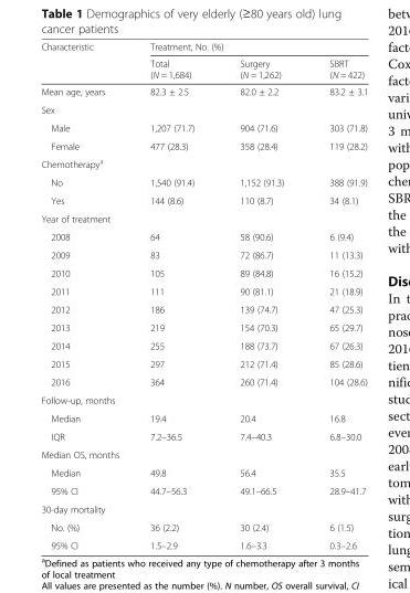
<table><thead><tr><td rowspan="2">Characteristic</td><td colspan="3">Treatment, No. (%)</td></tr><tr><td>Total (N = 1,684)</td><td>Surgery (N = 1,262)</td><td>SBRT (N = 422)</td></tr></thead><tbody><tr><td>Mean age, years</td><td>82.3 ± 2.5</td><td>82.0 ± 2.2</td><td>83.2 ± 3.1</td></tr><tr><td colspan="4">Sex</td></tr><tr><td>Male</td><td>1,207 (71.7)</td><td>904 (71.6)</td><td>303 (71.8)</td></tr><tr><td>Female</td><td>477 (28.3)</td><td>358 (28.4)</td><td>119 (28.2)</td></tr><tr><td colspan="4">Chemotherapy<sup>a</sup></td></tr><tr><td>No</td><td>1,540 (91.4)</td><td>1,152 (91.3)</td><td>388 (91.9)</td></tr><tr><td>Yes</td><td>144 (8.6)</td><td>110 (8.7)</td><td>34 (8.1)</td></tr><tr><td colspan="4">Year of treatment</td></tr><tr><td>2008</td><td>64</td><td>58 (90.6)</td><td>6 (9.4)</td></tr><tr><td>2009</td><td>83</td><td>72 (86.7)</td><td>11 (13.3)</td></tr><tr><td>2010</td><td>105</td><td>89 (84.8)</td><td>16 (15.2)</td></tr><tr><td>2011</td><td>111</td><td>90 (81.1)</td><td>21 (18.9)</td></tr><tr><td>2012</td><td>186</td><td>139 (74.7)</td><td>47 (25.3)</td></tr><tr><td>2013</td><td>219</td><td>154 (70.3)</td><td>65 (29.7)</td></tr><tr><td>2014</td><td>255</td><td>188 (73.7)</td><td>67 (26.3)</td></tr><tr><td>2015</td><td>297</td><td>212 (71.4)</td><td>85 (28.6)</td></tr><tr><td>2016</td><td>364</td><td>260 (71.4)</td><td>104 (28.6)</td></tr><tr><td colspan="4">Follow-up, months</td></tr><tr><td>Median</td><td>19.4</td><td>20.4</td><td>16.8</td></tr><tr><td>IQR</td><td>7.2–36.5</td><td>7.4–40.3</td><td>6.8–30.0</td></tr><tr><td colspan="4">Median OS, months</td></tr><tr><td>Median</td><td>49.8</td><td>56.4</td><td>35.5</td></tr><tr><td>95% CI</td><td>44.7–56.3</td><td>49.1–66.5</td><td>28.9–41.7</td></tr><tr><td colspan="4">30-day mortality</td></tr><tr><td>No. (%)</td><td>36 (2.2)</td><td>30 (2.4)</td><td>6 (1.5)</td></tr><tr><td>95% CI</td><td>1.5–2.9</td><td>1.6–3.3</td><td>0.3–2.6</td></tr></tbody></table>